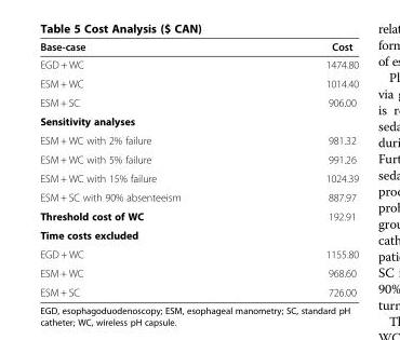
<table><thead><tr><td>Base-case</td><td>Cost</td></tr></thead><tbody><tr><td>EGD + WC</td><td>1474.80</td></tr><tr><td>ESM + WC</td><td>1014.40</td></tr><tr><td>ESM + SC</td><td>906.00</td></tr><tr><td colspan="2">Sensitivity analyses</td></tr><tr><td>ESM + WC with 2% failure</td><td>981.32</td></tr><tr><td>ESM + WC with 5% failure</td><td>991.26</td></tr><tr><td>ESM + WC with 15% failure</td><td>1024.39</td></tr><tr><td>ESM + SC with 90% absenteeism</td><td>887.97</td></tr><tr><td>Threshold cost of WC</td><td>192.91</td></tr><tr><td colspan="2">Time costs excluded</td></tr><tr><td>EGD + WC</td><td>1155.80</td></tr><tr><td>ESM + WC</td><td>968.60</td></tr><tr><td>ESM + SC</td><td>726.00</td></tr></tbody></table>